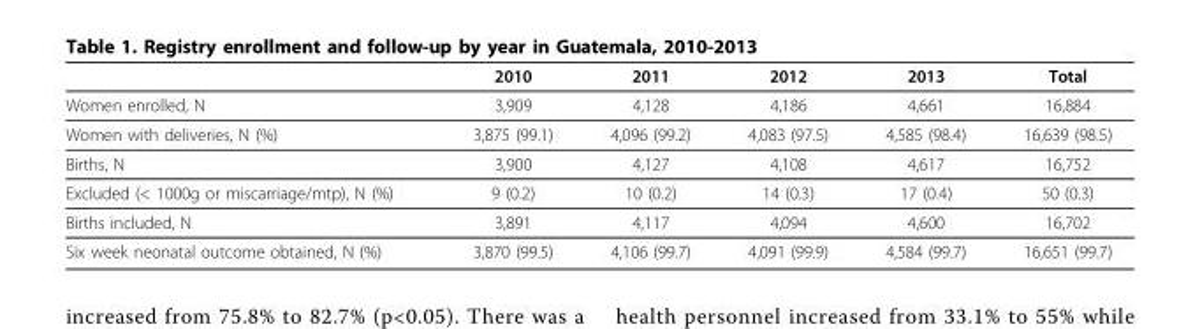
<table><thead><tr><td></td><td>2010</td><td>2011</td><td>2012</td><td>2013</td><td>Total</td></tr></thead><tbody><tr><td>Women enrolled, N</td><td>3,909</td><td>4,128</td><td>4,186</td><td>4,661</td><td>16,884</td></tr><tr><td>Women with deliveries, N (%)</td><td>3,875 (99.1)</td><td>4,096 (99.2)</td><td>4,083 (97.5)</td><td>4,585 (98.4)</td><td>16,639 (98.5)</td></tr><tr><td>Births, N</td><td>3,900</td><td>4,127</td><td>4,108</td><td>4,617</td><td>16,752</td></tr><tr><td>Excluded (&lt; 1000g or miscarriage/mtp), N (%)</td><td>9 (0.2)</td><td>10 (0.2)</td><td>14 (0.3)</td><td>17 (0.4)</td><td>50 (0.3)</td></tr><tr><td>Births included, N</td><td>3,891</td><td>4,117</td><td>4,094</td><td>4,600</td><td>16,702</td></tr><tr><td>Six week neonatal outcome obtained, N (%)</td><td>3,870 (99.5)</td><td>4,106 (99.7)</td><td>4,091 (99.9)</td><td>4,584 (99.7)</td><td>16,651 (99.7)</td></tr></tbody></table>